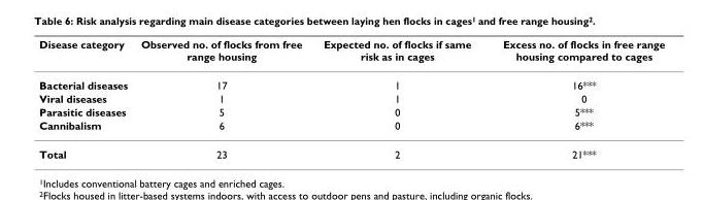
<table><thead><tr><td>Disease category</td><td>Observed no. of flocks from free range housing</td><td>Expected no. of flocks if same risk as in cages</td><td>Excess no. of flocks in free range housing compared to cages</td></tr></thead><tbody><tr><td>Bacterial diseases</td><td>17</td><td>1</td><td>16***</td></tr><tr><td>Viral diseases</td><td>1</td><td>1</td><td>0</td></tr><tr><td>Parasitic diseases</td><td>5</td><td>0</td><td>5***</td></tr><tr><td>Cannibalism</td><td>6</td><td>0</td><td>6***</td></tr><tr><td>Total</td><td>23</td><td>2</td><td>21***</td></tr></tbody></table>